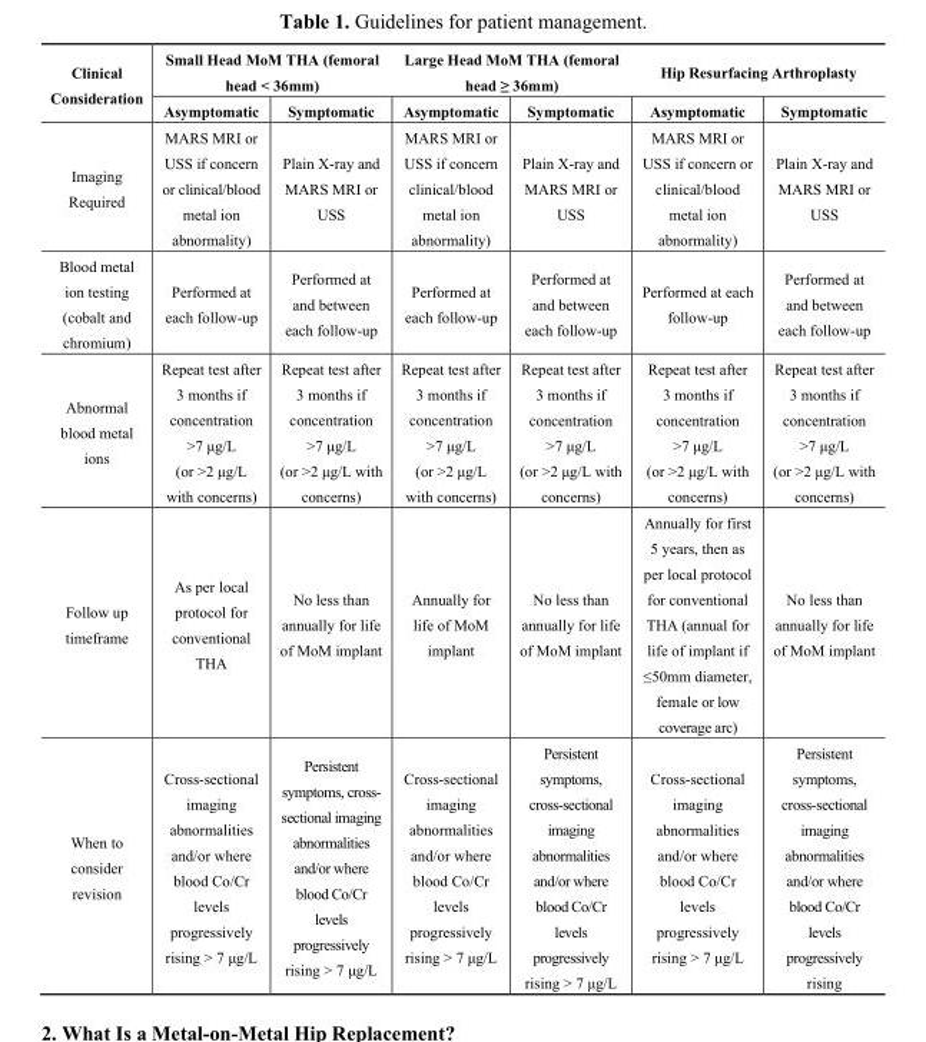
<table><thead><tr><td rowspan="2">Clinical Consideration</td><td colspan="2">Small Head MoM THA (femoral head &lt; 36mm)</td><td colspan="2">Large Head MoM THA (femoral head ≥ 36mm)</td><td colspan="2">Hip Resurfacing Arthroplasty</td></tr><tr><td>Asymptomatic</td><td>Symptomatic</td><td>Asymptomatic</td><td>Symptomatic</td><td>Asymptomatic</td><td>Symptomatic</td></tr></thead><tbody><tr><td>Imaging Required</td><td>MARS MRI or USS if concern or clinical/blood metal ion abnormality)</td><td>Plain X-ray and MARS MRI or USS</td><td>MARS MRI or USS if concern clinical/blood metal ion abnormality)</td><td>Plain X-ray and MARS MRI or USS</td><td>MARS MRI or USS if concern or clinical/blood metal ion abnormality)</td><td>Plain X-ray and MARS MRI or USS</td></tr><tr><td>Blood metal ion testing (cobalt and chromium)</td><td>Performed at each follow-up</td><td>Performed at and between each follow-up</td><td>Performed at each follow-up</td><td>Performed at and between each follow-up</td><td>Performed at each follow-up</td><td>Performed at and between each follow-up</td></tr><tr><td>Abnormal blood metal ions</td><td>Repeat test after 3 months if concentration &gt;7 μg/L (or &gt;2 μg/L with concerns)</td><td>Repeat test after 3 months if concentration &gt;7 μg/L (or &gt;2 μg/L with concerns)</td><td>Repeat test after 3 months if concentration &gt;7 μg/L (or &gt;2 μg/L with concerns)</td><td>Repeat test after 3 months if concentration &gt;7 μg/L (or &gt;2 μg/L with concerns)</td><td>Repeat test after 3 months if concentration &gt;7 μg/L (or &gt;2 μg/L with concerns)</td><td>Repeat test after 3 months if concentration &gt;7 μg/L (or &gt;2 μg/L with concerns)</td></tr><tr><td>Follow up timeframe</td><td>As per local protocol for conventional THA</td><td>No less than annually for life of MoM implant</td><td>Annually for life of MoM implant</td><td>No less than annually for life of MoM implant</td><td>Annually for first 5 years, then as per local protocol for conventional THA (annual for life of implant if ≤50mm diameter, female or low coverage arc)</td><td>No less than annually for life of MoM implant</td></tr><tr><td>When to consider revision</td><td>Cross-sectional imaging abnormalities and/or where blood Co/Cr levels progressively rising &gt; 7 μg/L</td><td>Persistent symptoms, cross- sectional imaging abnormalities and/or where blood Co/Cr levels progressively rising &gt; 7 μg/L</td><td>Cross-sectional imaging abnormalities and/or where blood Co/Cr levels progressively rising &gt; 7 μg/L</td><td>Persistent symptoms, cross-sectional imaging abnormalities and/or where blood Co/Cr levels progressively rising &gt; 7 μg/L</td><td>Cross-sectional imaging abnormalities and/or where blood Co/Cr levels progressively rising &gt; 7 μg/L</td><td>Persistent symptoms, cross-sectional imaging abnormalities and/or where blood Co/Cr levels progressively rising</td></tr></tbody></table>